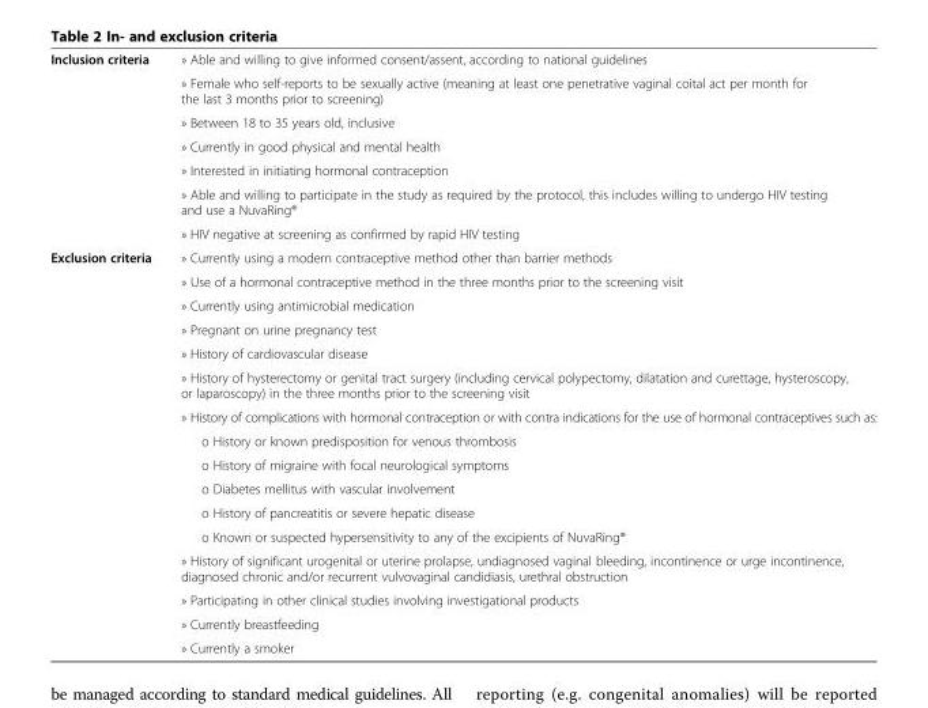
<table><tbody><tr><td rowspan="7">Inclusion criteria</td><td>» Able and willing to give informed consent/assent, according to national guidelines</td></tr><tr><td>» Female who self-reports to be sexually active (meaning at least one penetrative vaginal coital act per month for the last 3 months prior to screening)</td></tr><tr><td>» Between 18 to 35 years old, inclusive</td></tr><tr><td>» Currently in good physical and mental health</td></tr><tr><td>» Interested in initiating hormonal contraception</td></tr><tr><td>» Able and willing to participate in the study as required by the protocol, this includes willing to undergo HIV testing and use a NuvaRing®</td></tr><tr><td>» HIV negative at screening as confirmed by rapid HIV testing</td></tr><tr><td rowspan="16">Exclusion criteria</td><td>» Currently using a modern contraceptive method other than barrier methods</td></tr><tr><td>» Use of a hormonal contraceptive method in the three months prior to the screening visit</td></tr><tr><td>» Currently using antimicrobial medication</td></tr><tr><td>» Pregnant on urine pregnancy test</td></tr><tr><td>» History of cardiovascular disease</td></tr><tr><td>» History of hysterectomy or genital tract surgery (including cervical polypectomy, dilatation and curettage, hysteroscopy, or laparoscopy) in the three months prior to the screening visit</td></tr><tr><td>» History of complications with hormonal contraception or with contra indications for the use of hormonal contraceptives such as:</td></tr><tr><td>o History or known predisposition for venous thrombosis</td></tr><tr><td>o History of migraine with focal neurological symptoms</td></tr><tr><td>o Diabetes mellitus with vascular involvement</td></tr><tr><td>o History of pancreatitis or severe hepatic disease</td></tr><tr><td>o Known or suspected hypersensitivity to any of the excipients of NuvaRing®</td></tr><tr><td>» History of significant urogenital or uterine prolapse, undiagnosed vaginal bleeding, incontinence or urge incontinence, diagnosed chronic and/or recurrent vulvovaginal candidiasis, urethral obstruction</td></tr><tr><td>» Participating in other clinical studies involving investigational products</td></tr><tr><td>» Currently breastfeeding</td></tr><tr><td>» Currently a smoker</td></tr></tbody></table>